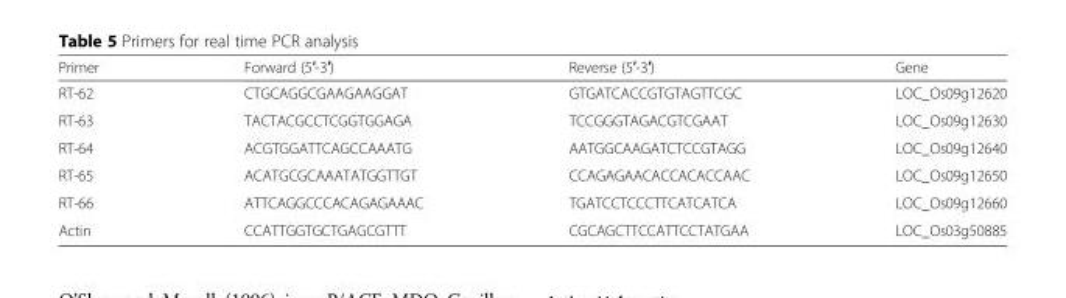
<table><thead><tr><td>Primer</td><td>Forward (5′-3′)</td><td>Reverse (5′-3′)</td><td>Gene</td></tr></thead><tbody><tr><td>RT-62</td><td>CTGCAGGCGAAGAAGGAT</td><td>GTGATCACCGTGTAGTTCGC</td><td>LOC_Os09g12620</td></tr><tr><td>RT-63</td><td>TACTACGCCTCGGTGGAGA</td><td>TCCGGGTAGACGTCGAAT</td><td>LOC_Os09g12630</td></tr><tr><td>RT-64</td><td>ACGTGGATTCAGCCAAATG</td><td>AATGGCAAGATCTCCGTAGG</td><td>LOC_Os09g12640</td></tr><tr><td>RT-65</td><td>ACATGCGCAAATATGGTTGT</td><td>CCAGAGAACACCACACCAAC</td><td>LOC_Os09g12650</td></tr><tr><td>RT-66</td><td>ATTCAGGCCCACAGAGAAAC</td><td>TGATCCTCCCTTCATCATCA</td><td>LOC_Os09g12660</td></tr><tr><td>Actin</td><td>CCATTGGTGCTGAGCGTTT</td><td>CGCAGCTTCCATTCCTATGAA</td><td>LOC_Os03g50885</td></tr></tbody></table>